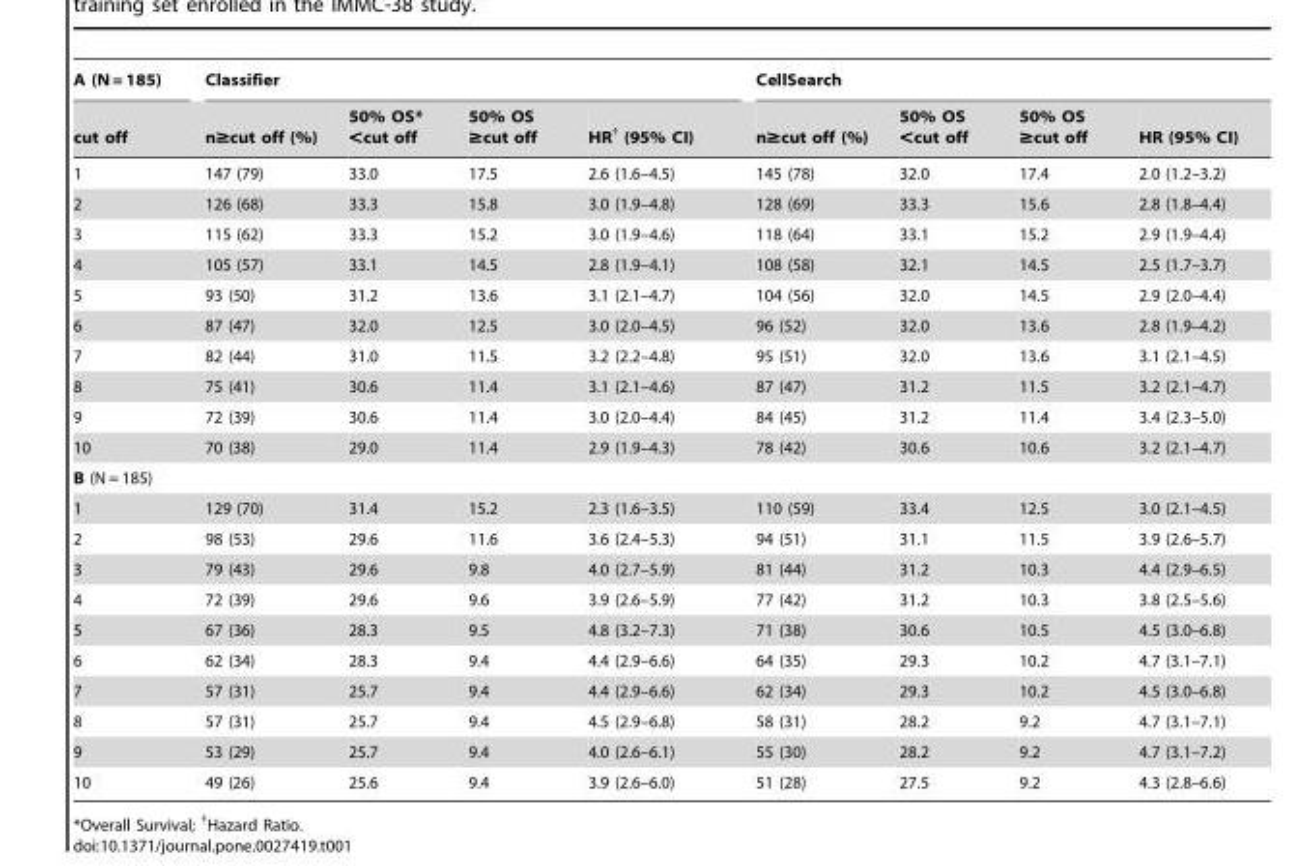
<table><thead><tr><td rowspan="2">A (N = 185) cut off</td><td colspan="4">Classifier</td><td colspan="4">CellSearch</td></tr><tr><td>n≥cut off (%)</td><td>50% OS* &lt;cut off</td><td>50% OS ≥cut off</td><td>HR<sup>†</sup> (95% CI)</td><td>n≥cut off (%)</td><td>50% OS &lt;cut off</td><td>50% OS ≥cut off</td><td>HR (95% CI)</td></tr></thead><tbody><tr><td>1</td><td>147 (79)</td><td>33.0</td><td>17.5</td><td>2.6 (1.6–4.5)</td><td>145 (78)</td><td>32.0</td><td>17.4</td><td>2.0 (1.2–3.2)</td></tr><tr><td>2</td><td>126 (68)</td><td>33.3</td><td>15.8</td><td>3.0 (1.9–4.8)</td><td>128 (69)</td><td>33.3</td><td>15.6</td><td>2.8 (1.8–4.4)</td></tr><tr><td>3</td><td>115 (62)</td><td>33.3</td><td>15.2</td><td>3.0 (1.9–4.6)</td><td>118 (64)</td><td>33.1</td><td>15.2</td><td>2.9 (1.9–4.4)</td></tr><tr><td>4</td><td>105 (57)</td><td>33.1</td><td>14.5</td><td>2.8 (1.9–4.1)</td><td>108 (58)</td><td>32.1</td><td>14.5</td><td>2.5 (1.7–3.7)</td></tr><tr><td>5</td><td>93 (50)</td><td>31.2</td><td>13.6</td><td>3.1 (2.1–4.7)</td><td>104 (56)</td><td>32.0</td><td>14.5</td><td>2.9 (2.0–4.4)</td></tr><tr><td>6</td><td>87 (47)</td><td>32.0</td><td>12.5</td><td>3.0 (2.0–4.5)</td><td>96 (52)</td><td>32.0</td><td>13.6</td><td>2.8 (1.9–4.2)</td></tr><tr><td>7</td><td>82 (44)</td><td>31.0</td><td>11.5</td><td>3.2 (2.2–4.8)</td><td>95 (51)</td><td>32.0</td><td>13.6</td><td>3.1 (2.1–4.5)</td></tr><tr><td>8</td><td>75 (41)</td><td>30.6</td><td>11.4</td><td>3.1 (2.1–4.6)</td><td>87 (47)</td><td>31.2</td><td>11.5</td><td>3.2 (2.1–4.7)</td></tr><tr><td>9</td><td>72 (39)</td><td>30.6</td><td>11.4</td><td>3.0 (2.0–4.4)</td><td>84 (45)</td><td>31.2</td><td>11.4</td><td>3.4 (2.3–5.0)</td></tr><tr><td>10</td><td>70 (38)</td><td>29.0</td><td>11.4</td><td>2.9 (1.9–4.3)</td><td>78 (42)</td><td>30.6</td><td>10.6</td><td>3.2 (2.1–4.7)</td></tr><tr><td colspan="9">B (N = 185)</td></tr><tr><td>1</td><td>129 (70)</td><td>31.4</td><td>15.2</td><td>2.3 (1.6–3.5)</td><td>110 (59)</td><td>33.4</td><td>12.5</td><td>3.0 (2.1–4.5)</td></tr><tr><td>2</td><td>98 (53)</td><td>29.6</td><td>11.6</td><td>3.6 (2.4–5.3)</td><td>94 (51)</td><td>31.1</td><td>11.5</td><td>3.9 (2.6–5.7)</td></tr><tr><td>3</td><td>79 (43)</td><td>29.6</td><td>9.8</td><td>4.0 (2.7–5.9)</td><td>81 (44)</td><td>31.2</td><td>10.3</td><td>4.4 (2.9–6.5)</td></tr><tr><td>4</td><td>72 (39)</td><td>29.6</td><td>9.6</td><td>3.9 (2.6–5.9)</td><td>77 (42)</td><td>31.2</td><td>10.3</td><td>3.8 (2.5–5.6)</td></tr><tr><td>5</td><td>67 (36)</td><td>28.3</td><td>9.5</td><td>4.8 (3.2–7.3)</td><td>71 (38)</td><td>30.6</td><td>10.5</td><td>4.5 (3.0–6.8)</td></tr><tr><td>6</td><td>62 (34)</td><td>28.3</td><td>9.4</td><td>4.4 (2.9–6.6)</td><td>64 (35)</td><td>29.3</td><td>10.2</td><td>4.7 (3.1–7.1)</td></tr><tr><td>7</td><td>57 (31)</td><td>25.7</td><td>9.4</td><td>4.4 (2.9–6.6)</td><td>62 (34)</td><td>29.3</td><td>10.2</td><td>4.5 (3.0–6.8)</td></tr><tr><td>8</td><td>57 (31)</td><td>25.7</td><td>9.4</td><td>4.5 (2.9–6.8)</td><td>58 (31)</td><td>28.2</td><td>9.2</td><td>4.7 (3.1–7.1)</td></tr><tr><td>9</td><td>53 (29)</td><td>25.7</td><td>9.4</td><td>4.0 (2.6–6.1)</td><td>55 (30)</td><td>28.2</td><td>9.2</td><td>4.7 (3.1–7.2)</td></tr><tr><td>10</td><td>49 (26)</td><td>25.6</td><td>9.4</td><td>3.9 (2.6–6.0)</td><td>51 (28)</td><td>27.5</td><td>9.2</td><td>4.3 (2.8–6.6)</td></tr></tbody></table>